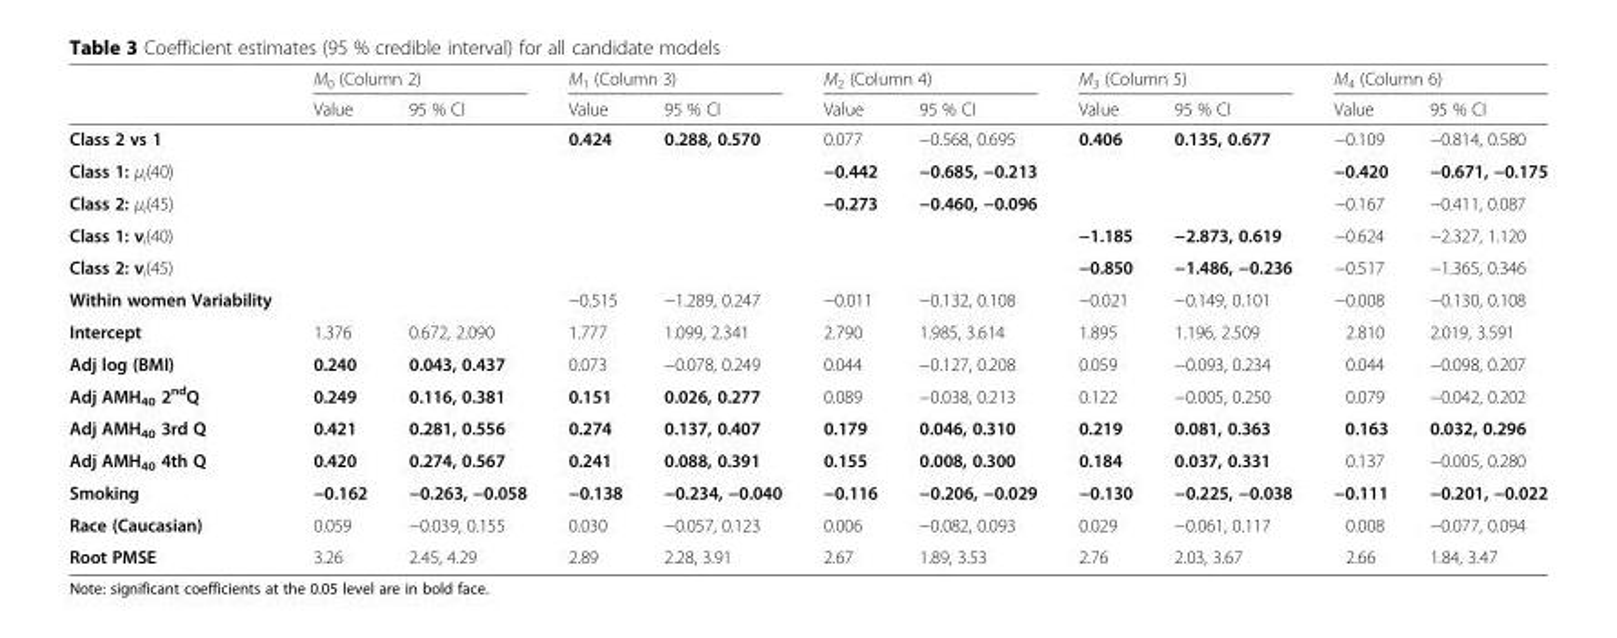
<table><thead><tr><td rowspan="2"></td><td colspan="2">M<sub>0</sub> (Column 2)</td><td colspan="2">M<sub>1</sub> (Column 3)</td><td colspan="2">M<sub>2</sub> (Column 4)</td><td colspan="2">M<sub>3</sub> (Column 5)</td><td colspan="2">M<sub>4</sub> (Column 6)</td></tr><tr><td>Value</td><td>95 % CI</td><td>Value</td><td>95 % CI</td><td>Value</td><td>95 % CI</td><td>Value</td><td>95 % CI</td><td>Value</td><td>95 % CI</td></tr></thead><tbody><tr><td>Class 2 vs 1</td><td></td><td></td><td>0.424</td><td>0.288, 0.570</td><td>0.077</td><td>−0.568, 0.695</td><td>0.406</td><td>0.135, 0.677</td><td>−0.109</td><td>−0.814, 0.580</td></tr><tr><td>Class 1: μ<sub>i</sub>(40)</td><td></td><td></td><td></td><td></td><td>−0.442</td><td>−0.685, −0.213</td><td></td><td></td><td>−0.420</td><td>−0.671, −0.175</td></tr><tr><td>Class 2: μ<sub>i</sub>(45)</td><td></td><td></td><td></td><td></td><td>−0.273</td><td>−0.460, −0.096</td><td></td><td></td><td>−0.167</td><td>−0.411, 0.087</td></tr><tr><td>Class 1: ν<sub>i</sub>(40)</td><td></td><td></td><td></td><td></td><td></td><td></td><td>−1.185</td><td>−2.873, 0.619</td><td>−0.624</td><td>−2.327, 1.120</td></tr><tr><td>Class 2: ν<sub>i</sub>(45)</td><td></td><td></td><td></td><td></td><td></td><td></td><td>−0.850</td><td>−1.486, −0.236</td><td>−0.517</td><td>−1.365, 0.346</td></tr><tr><td>Within women Variability</td><td></td><td></td><td>−0.515</td><td>−1.289, 0.247</td><td>−0.011</td><td>−0.132, 0.108</td><td>−0.021</td><td>−0.149, 0.101</td><td>−0.008</td><td>−0.130, 0.108</td></tr><tr><td>Intercept</td><td>1.376</td><td>0.672, 2.090</td><td>1.777</td><td>1.099, 2.341</td><td>2.790</td><td>1.985, 3.614</td><td>1.895</td><td>1.196, 2.509</td><td>2.810</td><td>2.019, 3.591</td></tr><tr><td>Adj log (BMI)</td><td>0.240</td><td>0.043, 0.437</td><td>0.073</td><td>−0.078, 0.249</td><td>0.044</td><td>−0.127, 0.208</td><td>0.059</td><td>−0.093, 0.234</td><td>0.044</td><td>−0.098, 0.207</td></tr><tr><td>Adj AMH<sub>40</sub> 2<sup>nd</sup>Q</td><td>0.249</td><td>0.116, 0.381</td><td>0.151</td><td>0.026, 0.277</td><td>0.089</td><td>−0.038, 0.213</td><td>0.122</td><td>−0.005, 0.250</td><td>0.079</td><td>−0.042, 0.202</td></tr><tr><td>Adj AMH<sub>40</sub> 3rd Q</td><td>0.421</td><td>0.281, 0.556</td><td>0.274</td><td>0.137, 0.407</td><td>0.179</td><td>0.046, 0.310</td><td>0.219</td><td>0.081, 0.363</td><td>0.163</td><td>0.032, 0.296</td></tr><tr><td>Adj AMH<sub>40</sub> 4th Q</td><td>0.420</td><td>0.274, 0.567</td><td>0.241</td><td>0.088, 0.391</td><td>0.155</td><td>0.008, 0.300</td><td>0.184</td><td>0.037, 0.331</td><td>0.137</td><td>−0.005, 0.280</td></tr><tr><td>Smoking</td><td>−0.162</td><td>−0.263, −0.058</td><td>−0.138</td><td>−0.234, −0.040</td><td>−0.116</td><td>−0.206, −0.029</td><td>−0.130</td><td>−0.225, −0.038</td><td>−0.111</td><td>−0.201, −0.022</td></tr><tr><td>Race (Caucasian)</td><td>0.059</td><td>−0.039, 0.155</td><td>0.030</td><td>−0.057, 0.123</td><td>0.006</td><td>−0.082, 0.093</td><td>0.029</td><td>−0.061, 0.117</td><td>0.008</td><td>−0.077, 0.094</td></tr><tr><td>Root PMSE</td><td>3.26</td><td>2.45, 4.29</td><td>2.89</td><td>2.28, 3.91</td><td>2.67</td><td>1.89, 3.53</td><td>2.76</td><td>2.03, 3.67</td><td>2.66</td><td>1.84, 3.47</td></tr></tbody></table>